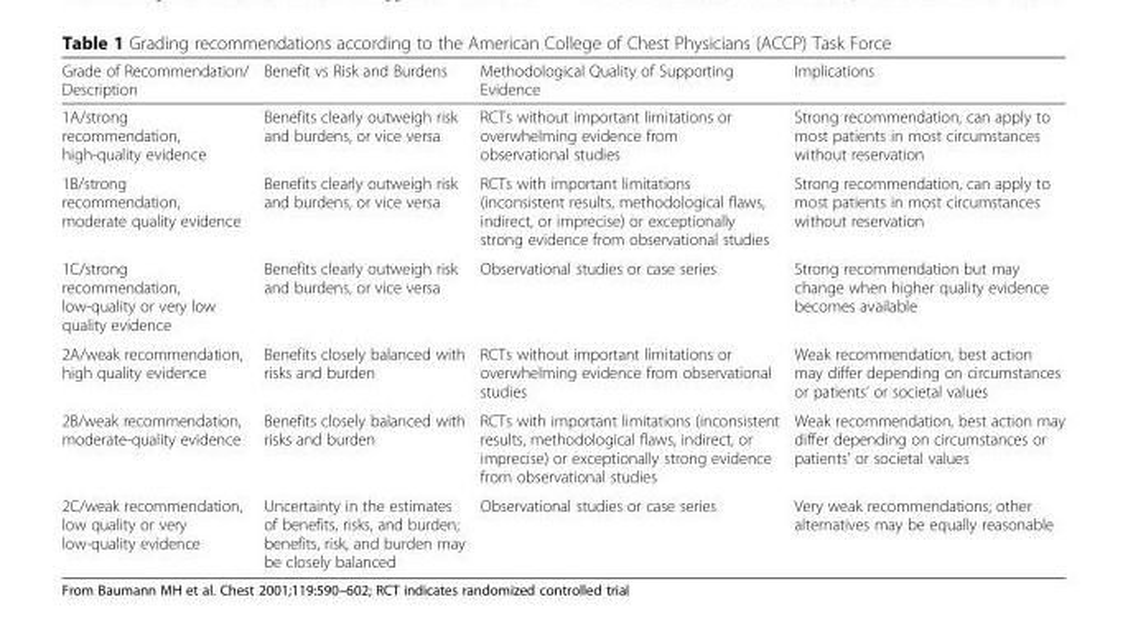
<table><thead><tr><td>Grade of Recommendation/ Description</td><td>Benefit vs Risk and Burdens</td><td>Methodological Quality of Supporting Evidence</td><td>Implications</td></tr></thead><tbody><tr><td>1A/strong recommendation, high-quality evidence</td><td>Benefits clearly outweigh risk and burdens, or vice versa</td><td>RCTs without important limitations or overwhelming evidence from observational studies</td><td>Strong recommendation, can apply to most patients in most circumstances without reservation</td></tr><tr><td>1B/strong recommendation, moderate quality evidence</td><td>Benefits clearly outweigh risk and burdens, or vice versa</td><td>RCTs with important limitations (inconsistent results, methodological flaws, indirect, or imprecise) or exceptionally strong evidence from observational studies</td><td>Strong recommendation, can apply to most patients in most circumstances without reservation</td></tr><tr><td>1C/strong recommendation, low-quality or very low quality evidence</td><td>Benefits clearly outweigh risk and burdens, or vice versa</td><td>Observational studies or case series</td><td>Strong recommendation but may change when higher quality evidence becomes available</td></tr><tr><td>2A/weak recommendation, high quality evidence</td><td>Benefits closely balanced with risks and burden</td><td>RCTs without important limitations or overwhelming evidence from observational studies</td><td>Weak recommendation, best action may differ depending on circumstances or patients’ or societal values</td></tr><tr><td>2B/weak recommendation, moderate-quality evidence</td><td>Benefits closely balanced with risks and burden</td><td>RCTs with important limitations (inconsistent results, methodological flaws, indirect, or imprecise) or exceptionally strong evidence from observational studies</td><td>Weak recommendation, best action may differ depending on circumstances or patients’ or societal values</td></tr><tr><td>2C/weak recommendation, low quality or very low-quality evidence</td><td>Uncertainty in the estimates of benefits, risks, and burden; benefits, risk, and burden may be closely balanced</td><td>Observational studies or case series</td><td>Very weak recommendations; other alternatives may be equally reasonable</td></tr></tbody></table>